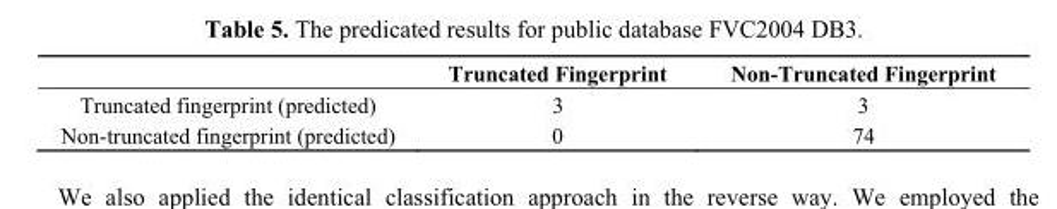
<table><thead><tr><td></td><td>Truncated Fingerprint</td><td>Non-Truncated Fingerprint</td></tr></thead><tbody><tr><td>Truncated fingerprint (predicted)</td><td>3</td><td>3</td></tr><tr><td>Non-truncated fingerprint (predicted)</td><td>0</td><td>74</td></tr></tbody></table>